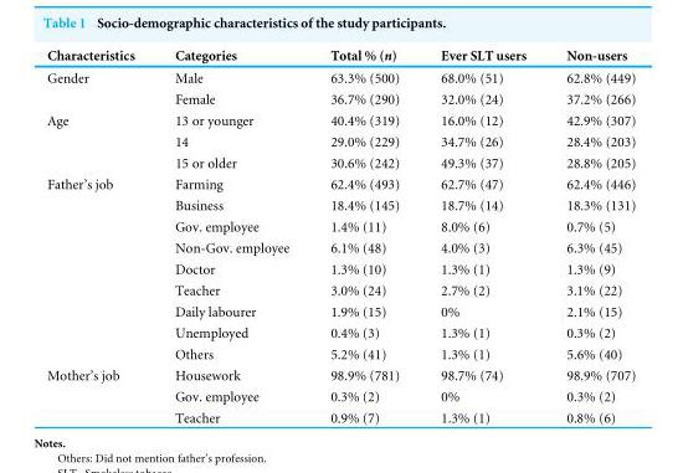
<table><thead><tr><td>Characteristics</td><td>Categories</td><td>Total % (n)</td><td>Ever SLT users</td><td>Non-users</td></tr></thead><tbody><tr><td rowspan="2">Gender</td><td>Male</td><td>63.3% (500)</td><td>68.0% (51)</td><td>62.8% (449)</td></tr><tr><td>Female</td><td>36.7% (290)</td><td>32.0% (24)</td><td>37.2% (266)</td></tr><tr><td rowspan="3">Age</td><td>13 or younger</td><td>40.4% (319)</td><td>16.0% (12)</td><td>42.9% (307)</td></tr><tr><td>14</td><td>29.0% (229)</td><td>34.7% (26)</td><td>28.4% (203)</td></tr><tr><td>15 or older</td><td>30.6% (242)</td><td>49.3% (37)</td><td>28.8% (205)</td></tr><tr><td rowspan="9">Father’s job</td><td>Farming</td><td>62.4% (493)</td><td>62.7% (47)</td><td>62.4% (446)</td></tr><tr><td>Business</td><td>18.4% (145)</td><td>18.7% (14)</td><td>18.3% (131)</td></tr><tr><td>Gov. employee</td><td>1.4% (11)</td><td>8.0% (6)</td><td>0.7% (5)</td></tr><tr><td>Non-Gov. employee</td><td>6.1% (48)</td><td>4.0% (3)</td><td>6.3% (45)</td></tr><tr><td>Doctor</td><td>1.3% (10)</td><td>1.3% (1)</td><td>1.3% (9)</td></tr><tr><td>Teacher</td><td>3.0% (24)</td><td>2.7% (2)</td><td>3.1% (22)</td></tr><tr><td>Daily labourer</td><td>1.9% (15)</td><td>0%</td><td>2.1% (15)</td></tr><tr><td>Unemployed</td><td>0.4% (3)</td><td>1.3% (1)</td><td>0.3% (2)</td></tr><tr><td>Others</td><td>5.2% (41)</td><td>1.3% (1)</td><td>5.6% (40)</td></tr><tr><td rowspan="3">Mother’s job</td><td>Housework</td><td>98.9% (781)</td><td>98.7% (74)</td><td>98.9% (707)</td></tr><tr><td>Gov. employee</td><td>0.3% (2)</td><td>0%</td><td>0.3% (2)</td></tr><tr><td>Teacher</td><td>0.9% (7)</td><td>1.3% (1)</td><td>0.8% (6)</td></tr></tbody></table>